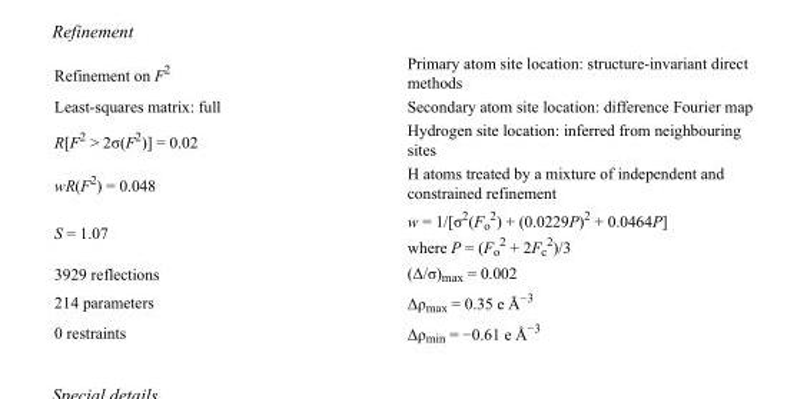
<table><tbody><tr><td>Refinement on F<sup>2</sup></td><td>Primary atom site location: structure-invariant direct methods</td></tr><tr><td>Least-squares matrix: full</td><td>Secondary atom site location: difference Fourier map</td></tr><tr><td>R[F<sup>2</sup> &gt; 2σ(F<sup>2</sup>)] = 0.02</td><td>Hydrogen site location: inferred from neighbouring sites</td></tr><tr><td>wR(F<sup>2</sup>) = 0.048</td><td>H atoms treated by a mixture of independent and constrained refinement</td></tr><tr><td>S = 1.07</td><td>w = 1/[σ<sup>2</sup>(F<sub>o</sub> <sup>2</sup>) + (0.0229P)<sup>2</sup> + 0.0464P] where P = (F<sub>o</sub> <sup>2</sup> + 2F<sub>c</sub> <sup>2</sup>)/3</td></tr><tr><td>3929 reflections</td><td>(Δ/σ)<sub>max</sub> = 0.002</td></tr><tr><td>214 parameters</td><td>Δρ<sub>max</sub> = 0.35 e Å<sup>−3</sup></td></tr><tr><td>0 restraints</td><td>Δρ<sub>min</sub> = −0.61 e Å<sup>−3</sup></td></tr></tbody></table>